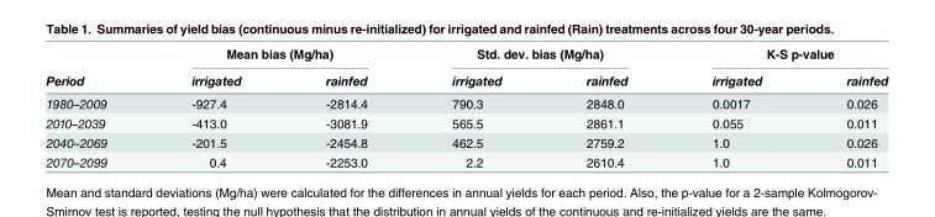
<table><thead><tr><td rowspan="2">Period</td><td colspan="2">Mean bias (Mg/ha)</td><td colspan="2">Std. dev. bias (Mg/ha)</td><td colspan="2">K-S p-value</td></tr><tr><td>irrigated</td><td>rainfed</td><td>irrigated</td><td>rainfed</td><td>irrigated</td><td>rainfed</td></tr></thead><tbody><tr><td>1980–2009</td><td>-927.4</td><td>-2814.4</td><td>790.3</td><td>2848.0</td><td>0.0017</td><td>0.026</td></tr><tr><td>2010–2039</td><td>-413.0</td><td>-3081.9</td><td>565.5</td><td>2861.1</td><td>0.055</td><td>0.011</td></tr><tr><td>2040–2069</td><td>-201.5</td><td>-2454.8</td><td>462.5</td><td>2759.2</td><td>1.0</td><td>0.026</td></tr><tr><td>2070–2099</td><td>0.4</td><td>-2253.0</td><td>2.2</td><td>2610.4</td><td>1.0</td><td>0.011</td></tr></tbody></table>